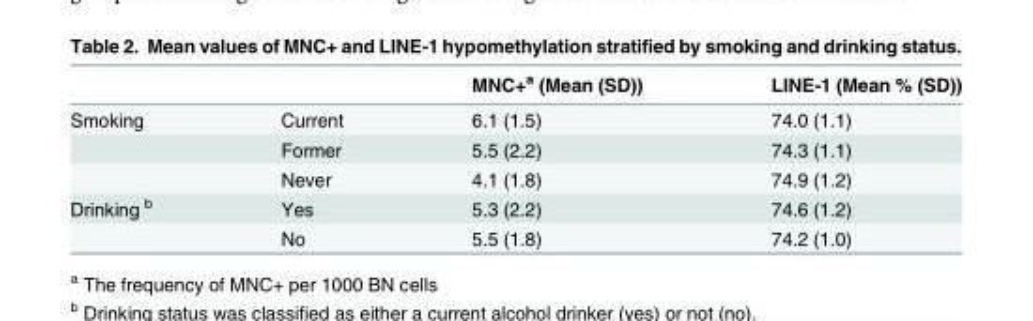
<table><thead><tr><td></td><td></td><td>MNC+<sup>a</sup> (Mean (SD))</td><td>LINE-1 (Mean % (SD))</td></tr></thead><tbody><tr><td rowspan="3">Smoking</td><td>Current</td><td>6.1 (1.5)</td><td>74.0 (1.1)</td></tr><tr><td>Former</td><td>5.5 (2.2)</td><td>74.3 (1.1)</td></tr><tr><td>Never</td><td>4.1 (1.8)</td><td>74.9 (1.2)</td></tr><tr><td rowspan="2">Drinking <sup>b</sup></td><td>Yes</td><td>5.3 (2.2)</td><td>74.6 (1.2)</td></tr><tr><td>No</td><td>5.5 (1.8)</td><td>74.2 (1.0)</td></tr></tbody></table>